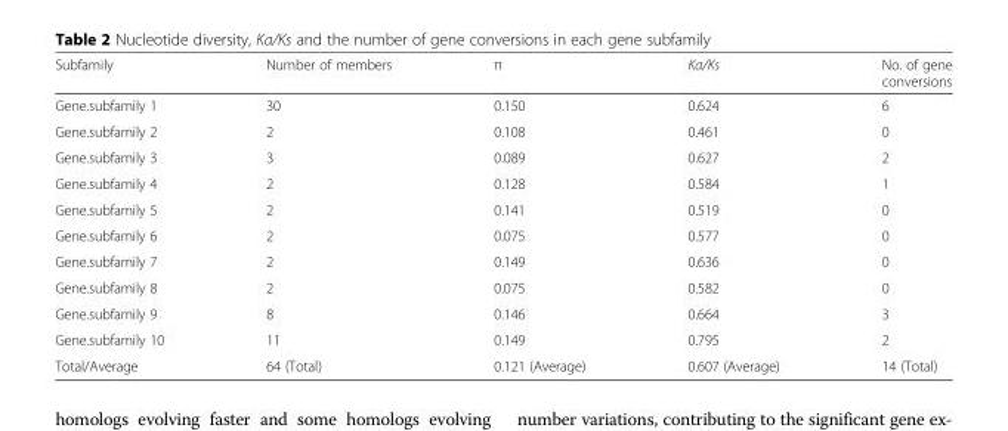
<table><thead><tr><td>Subfamily</td><td>Number of members</td><td>π</td><td>Ka/Ks</td><td>No. of gene conversions</td></tr></thead><tbody><tr><td>Gene.subfamily 1</td><td>30</td><td>0.150</td><td>0.624</td><td>6</td></tr><tr><td>Gene.subfamily 2</td><td>2</td><td>0.108</td><td>0.461</td><td>0</td></tr><tr><td>Gene.subfamily 3</td><td>3</td><td>0.089</td><td>0.627</td><td>2</td></tr><tr><td>Gene.subfamily 4</td><td>2</td><td>0.128</td><td>0.584</td><td>1</td></tr><tr><td>Gene.subfamily 5</td><td>2</td><td>0.141</td><td>0.519</td><td>0</td></tr><tr><td>Gene.subfamily 6</td><td>2</td><td>0.075</td><td>0.577</td><td>0</td></tr><tr><td>Gene.subfamily 7</td><td>2</td><td>0.149</td><td>0.636</td><td>0</td></tr><tr><td>Gene.subfamily 8</td><td>2</td><td>0.075</td><td>0.582</td><td>0</td></tr><tr><td>Gene.subfamily 9</td><td>8</td><td>0.146</td><td>0.664</td><td>3</td></tr><tr><td>Gene.subfamily 10</td><td>11</td><td>0.149</td><td>0.795</td><td>2</td></tr><tr><td>Total/Average</td><td>64 (Total)</td><td>0.121 (Average)</td><td>0.607 (Average)</td><td>14 (Total)</td></tr></tbody></table>